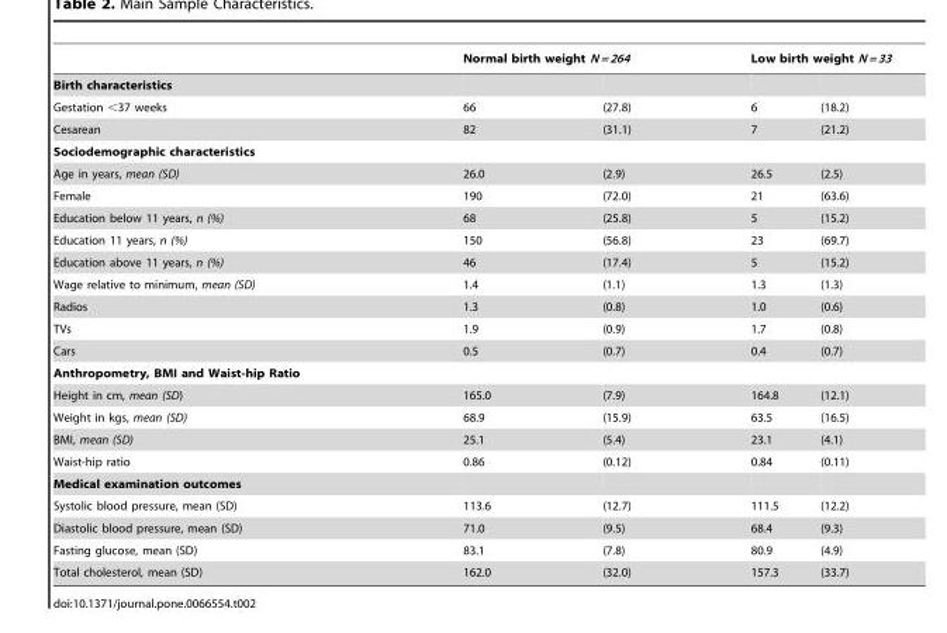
<table><thead><tr><td rowspan="2">Birth characteristics</td><td colspan="2">Normal birth weight N = 264</td><td colspan="2">Low birth weight N = 33</td></tr><tr><td></td><td></td><td></td><td></td></tr></thead><tbody><tr><td>Gestation &lt;37 weeks</td><td>66</td><td>(27.8)</td><td>6</td><td>(18.2)</td></tr><tr><td>Cesarean</td><td>82</td><td>(31.1)</td><td>7</td><td>(21.2)</td></tr><tr><td colspan="5">Sociodemographic characteristics</td></tr><tr><td>Age in years, mean (SD)</td><td>26.0</td><td>(2.9)</td><td>26.5</td><td>(2.5)</td></tr><tr><td>Female</td><td>190</td><td>(72.0)</td><td>21</td><td>(63.6)</td></tr><tr><td>Education below 11 years, n (%)</td><td>68</td><td>(25.8)</td><td>5</td><td>(15.2)</td></tr><tr><td>Education 11 years, n (%)</td><td>150</td><td>(56.8)</td><td>23</td><td>(69.7)</td></tr><tr><td>Education above 11 years, n (%)</td><td>46</td><td>(17.4)</td><td>5</td><td>(15.2)</td></tr><tr><td>Wage relative to minimum, mean (SD)</td><td>1.4</td><td>(1.1)</td><td>1.3</td><td>(1.3)</td></tr><tr><td>Radios</td><td>1.3</td><td>(0.8)</td><td>1.0</td><td>(0.6)</td></tr><tr><td>TVs</td><td>1.9</td><td>(0.9)</td><td>1.7</td><td>(0.8)</td></tr><tr><td>Cars</td><td>0.5</td><td>(0.7)</td><td>0.4</td><td>(0.7)</td></tr><tr><td colspan="5">Anthropometry, BMI and Waist-hip Ratio</td></tr><tr><td>Height in cm, mean (SD)</td><td>165.0</td><td>(7.9)</td><td>164.8</td><td>(12.1)</td></tr><tr><td>Weight in kgs, mean (SD)</td><td>68.9</td><td>(15.9)</td><td>63.5</td><td>(16.5)</td></tr><tr><td>BMI, mean (SD)</td><td>25.1</td><td>(5.4)</td><td>23.1</td><td>(4.1)</td></tr><tr><td>Waist-hip ratio</td><td>0.86</td><td>(0.12)</td><td>0.84</td><td>(0.11)</td></tr><tr><td colspan="5">Medical examination outcomes</td></tr><tr><td>Systolic blood pressure, mean (SD)</td><td>113.6</td><td>(12.7)</td><td>111.5</td><td>(12.2)</td></tr><tr><td>Diastolic blood pressure, mean (SD)</td><td>71.0</td><td>(9.5)</td><td>68.4</td><td>(9.3)</td></tr><tr><td>Fasting glucose, mean (SD)</td><td>83.1</td><td>(7.8)</td><td>80.9</td><td>(4.9)</td></tr><tr><td>Total cholesterol, mean (SD)</td><td>162.0</td><td>(32.0)</td><td>157.3</td><td>(33.7)</td></tr></tbody></table>